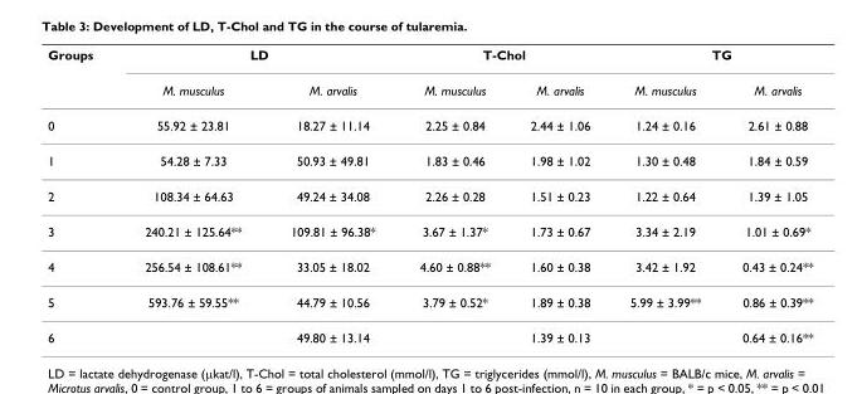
<table><thead><tr><td rowspan="2">Groups</td><td colspan="2">LD</td><td colspan="2">T-Chol</td><td colspan="2">TG</td></tr><tr><td>M. musculus</td><td>M. arvalis</td><td>M. musculus</td><td>M. arvalis</td><td>M. musculus</td><td>M. arvalis</td></tr></thead><tbody><tr><td>0</td><td>55.92 ± 23.81</td><td>18.27 ± 11.14</td><td>2.25 ± 0.84</td><td>2.44 ± 1.06</td><td>1.24 ± 0.16</td><td>2.61 ± 0.88</td></tr><tr><td>1</td><td>54.28 ± 7.33</td><td>50.93 ± 49.81</td><td>1.83 ± 0.46</td><td>1.98 ± 1.02</td><td>1.30 ± 0.48</td><td>1.84 ± 0.59</td></tr><tr><td>2</td><td>108.34 ± 64.63</td><td>49.24 ± 34.08</td><td>2.26 ± 0.28</td><td>1.51 ± 0.23</td><td>1.22 ± 0.64</td><td>1.39 ± 1.05</td></tr><tr><td>3</td><td>240.21 ± 125.64**</td><td>109.81 ± 96.38*</td><td>3.67 ± 1.37*</td><td>1.73 ± 0.67</td><td>3.34 ± 2.19</td><td>1.01 ± 0.69*</td></tr><tr><td>4</td><td>256.54 ± 108.61**</td><td>33.05 ± 18.02</td><td>4.60 ± 0.88**</td><td>1.60 ± 0.38</td><td>3.42 ± 1.92</td><td>0.43 ± 0.24**</td></tr><tr><td>5</td><td>593.76 ± 59.55**</td><td>44.79 ± 10.56</td><td>3.79 ± 0.52*</td><td>1.89 ± 0.38</td><td>5.99 ± 3.99**</td><td>0.86 ± 0.39**</td></tr><tr><td>6</td><td></td><td>49.80 ± 13.14</td><td></td><td>1.39 ± 0.13</td><td></td><td>0.64 ± 0.16**</td></tr></tbody></table>